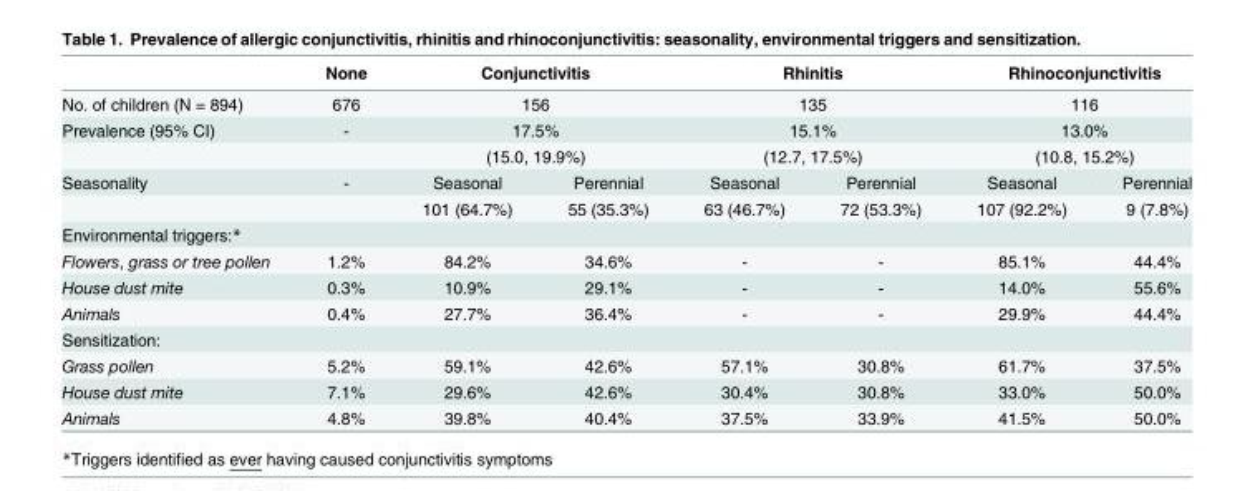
<table><thead><tr><td></td><td>None</td><td colspan="2">Conjunctivitis</td><td colspan="2">Rhinitis</td><td colspan="2">Rhinoconjunctivitis</td></tr></thead><tbody><tr><td>No. of children (N = 894)</td><td>676</td><td colspan="2">156</td><td colspan="2">135</td><td colspan="2">116</td></tr><tr><td rowspan="2">Prevalence (95% CI)</td><td>-</td><td colspan="2">17.5%</td><td colspan="2">15.1%</td><td colspan="2">13.0%</td></tr><tr><td></td><td colspan="2">(15.0, 19.9%)</td><td colspan="2">(12.7, 17.5%)</td><td colspan="2">(10.8, 15.2%)</td></tr><tr><td rowspan="2">Seasonality</td><td>-</td><td>Seasonal</td><td>Perennial</td><td>Seasonal</td><td>Perennial</td><td>Seasonal</td><td>Perennial</td></tr><tr><td></td><td>101 (64.7%)</td><td>55 (35.3%)</td><td>63 (46.7%)</td><td>72 (53.3%)</td><td>107 (92.2%)</td><td>9 (7.8%)</td></tr><tr><td colspan="8">Environmental triggers:*</td></tr><tr><td>Flowers, grass or tree pollen</td><td>1.2%</td><td>84.2%</td><td>34.6%</td><td>-</td><td>-</td><td>85.1%</td><td>44.4%</td></tr><tr><td>House dust mite</td><td>0.3%</td><td>10.9%</td><td>29.1%</td><td>-</td><td>-</td><td>14.0%</td><td>55.6%</td></tr><tr><td>Animals</td><td>0.4%</td><td>27.7%</td><td>36.4%</td><td>-</td><td>-</td><td>29.9%</td><td>44.4%</td></tr><tr><td colspan="8">Sensitization:</td></tr><tr><td>Grass pollen</td><td>5.2%</td><td>59.1%</td><td>42.6%</td><td>57.1%</td><td>30.8%</td><td>61.7%</td><td>37.5%</td></tr><tr><td>House dust mite</td><td>7.1%</td><td>29.6%</td><td>42.6%</td><td>30.4%</td><td>30.8%</td><td>33.0%</td><td>50.0%</td></tr><tr><td>Animals</td><td>4.8%</td><td>39.8%</td><td>40.4%</td><td>37.5%</td><td>33.9%</td><td>41.5%</td><td>50.0%</td></tr></tbody></table>